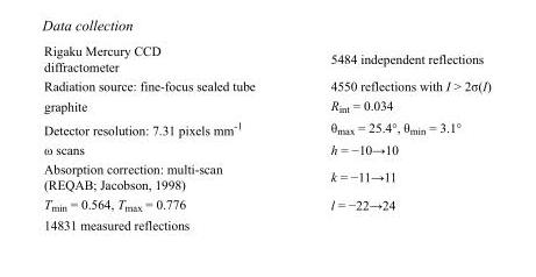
<table><tbody><tr><td>Rigaku Mercury CCD diffractometer</td><td>5484 independent reflections</td></tr><tr><td>Radiation source: fine-focus sealed tube</td><td>4550 reflections with I &gt; 2σ(I)</td></tr><tr><td>graphite</td><td>R<sub>int</sub> = 0.034</td></tr><tr><td>Detector resolution: 7.31 pixels mm<sup>-1</sup></td><td>θ<sub>max</sub> = 25.4°, θ<sub>min</sub> = 3.1°</td></tr><tr><td>ω scans</td><td>h = −10→10</td></tr><tr><td>Absorption correction: multi-scan (REQAB; Jacobson, 1998)</td><td>k = −11→11</td></tr><tr><td>T<sub>min</sub> = 0.564, T<sub>max</sub> = 0.776</td><td>l = −22→24</td></tr><tr><td>14831 measured reflections</td><td></td></tr></tbody></table>